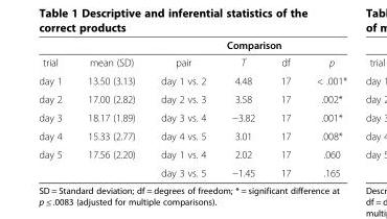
<table><thead><tr><td rowspan="2">trial</td><td rowspan="2">mean (SD)</td><td colspan="4">Comparison</td></tr><tr><td>pair</td><td>T</td><td>df</td><td>p</td></tr></thead><tbody><tr><td>day 1</td><td>13.50 (3.13)</td><td>day 1 vs. 2</td><td>4.48</td><td>17</td><td>&lt; .001*</td></tr><tr><td>day 2</td><td>17.00 (2.82)</td><td>day 2 vs. 3</td><td>3.58</td><td>17</td><td>.002*</td></tr><tr><td>day 3</td><td>18.17 (1.89)</td><td>day 3 vs. 4</td><td>−3.82</td><td>17</td><td>.001*</td></tr><tr><td>day 4</td><td>15.33 (2.77)</td><td>day 4 vs. 5</td><td>3.01</td><td>17</td><td>.008*</td></tr><tr><td rowspan="2">day 5</td><td>17.56 (2.20)</td><td>day 1 vs. 4</td><td>2.02</td><td>17</td><td>.060</td></tr><tr><td></td><td>day 3 vs. 5</td><td>−1.45</td><td>17</td><td>.165</td></tr></tbody></table>